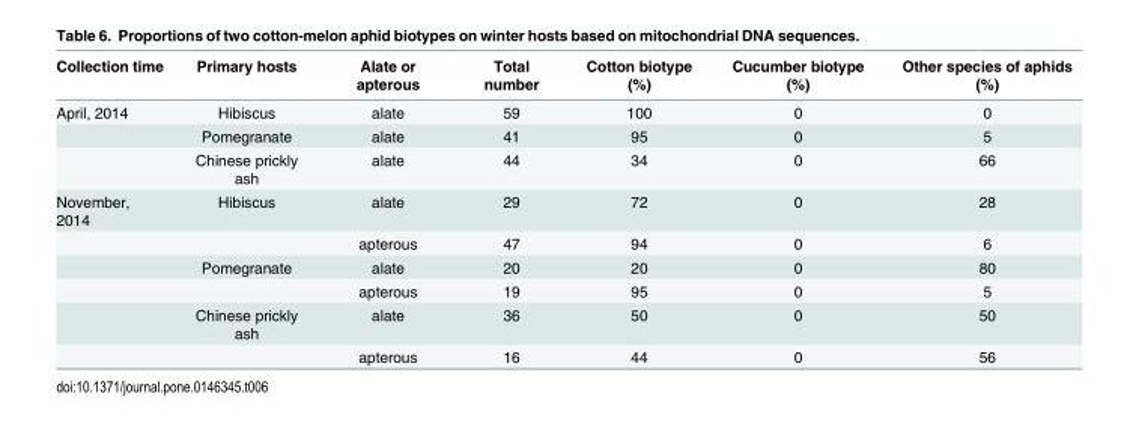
<table><thead><tr><td>Collection time</td><td>Primary hosts</td><td>Alate or apterous</td><td>Total number</td><td>Cotton biotype (%)</td><td>Cucumber biotype (%)</td><td>Other species of aphids (%)</td></tr></thead><tbody><tr><td rowspan="3">April, 2014</td><td>Hibiscus</td><td>alate</td><td>59</td><td>100</td><td>0</td><td>0</td></tr><tr><td>Pomegranate</td><td>alate</td><td>41</td><td>95</td><td>0</td><td>5</td></tr><tr><td>Chinese prickly ash</td><td>alate</td><td>44</td><td>34</td><td>0</td><td>66</td></tr><tr><td rowspan="6">November, 2014</td><td>Hibiscus</td><td>alate</td><td>29</td><td>72</td><td>0</td><td>28</td></tr><tr><td></td><td>apterous</td><td>47</td><td>94</td><td>0</td><td>6</td></tr><tr><td>Pomegranate</td><td>alate</td><td>20</td><td>20</td><td>0</td><td>80</td></tr><tr><td></td><td>apterous</td><td>19</td><td>95</td><td>0</td><td>5</td></tr><tr><td>Chinese prickly ash</td><td>alate</td><td>36</td><td>50</td><td>0</td><td>50</td></tr><tr><td></td><td>apterous</td><td>16</td><td>44</td><td>0</td><td>56</td></tr></tbody></table>